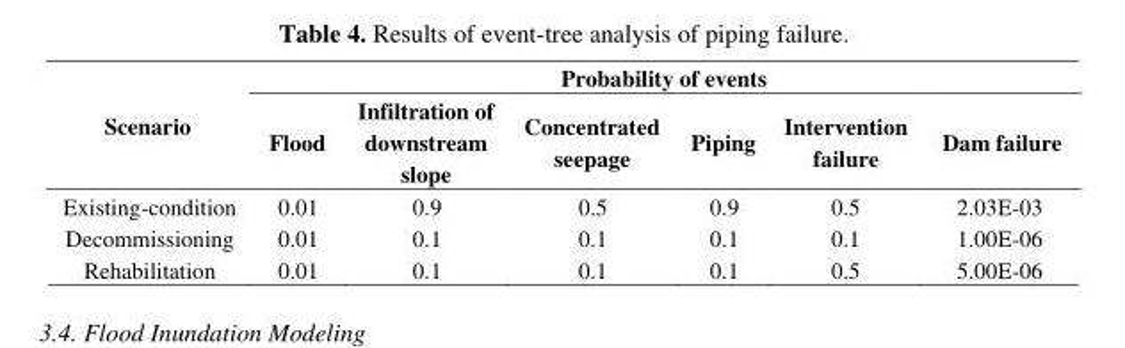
<table><thead><tr><td rowspan="2">Scenario</td><td colspan="6">Probability of events</td></tr><tr><td>Flood</td><td>Infiltration of downstream slope</td><td>Concentrated seepage</td><td>Piping</td><td>Intervention failure</td><td>Dam failure</td></tr></thead><tbody><tr><td>Existing-condition</td><td>0.01</td><td>0.9</td><td>0.5</td><td>0.9</td><td>0.5</td><td>2.03E-03</td></tr><tr><td>Decommissioning</td><td>0.01</td><td>0.1</td><td>0.1</td><td>0.1</td><td>0.1</td><td>1.00E-06</td></tr><tr><td>Rehabilitation</td><td>0.01</td><td>0.1</td><td>0.1</td><td>0.1</td><td>0.5</td><td>5.00E-06</td></tr></tbody></table>